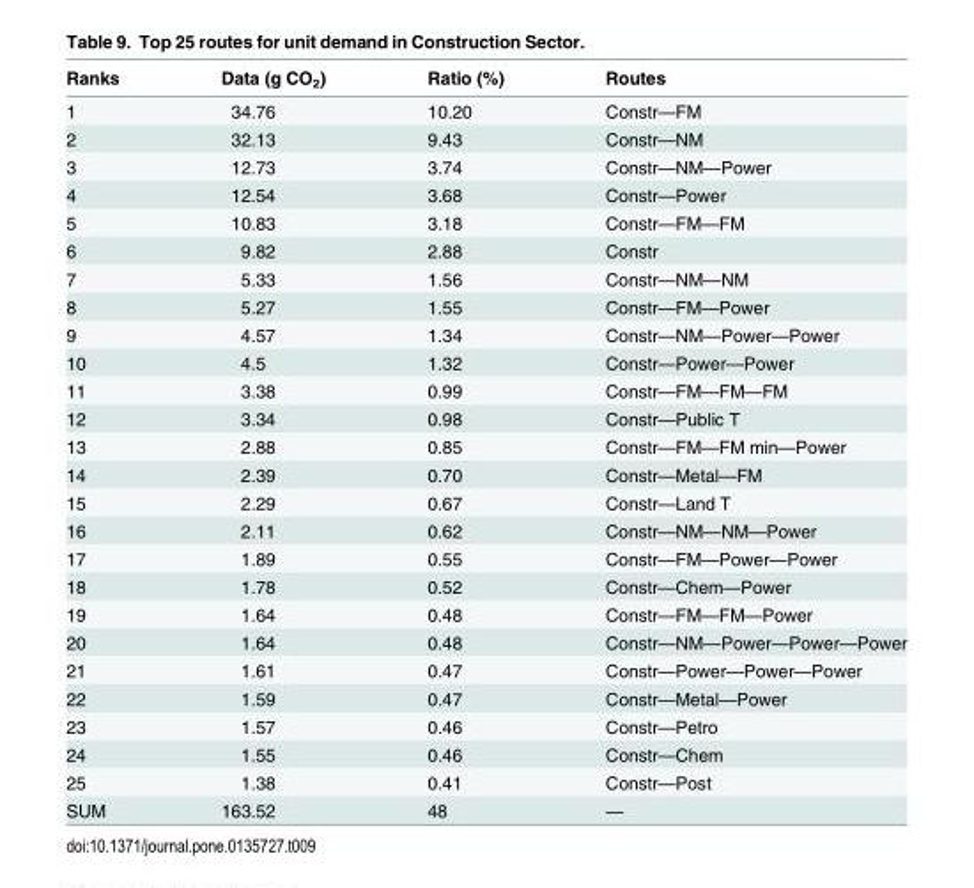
<table><thead><tr><td>Ranks</td><td>Data (g CO<sub>2</sub>)</td><td>Ratio (%)</td><td>Routes</td></tr></thead><tbody><tr><td>1</td><td>34.76</td><td>10.20</td><td>Constr—FM</td></tr><tr><td>2</td><td>32.13</td><td>9.43</td><td>Constr—NM</td></tr><tr><td>3</td><td>12.73</td><td>3.74</td><td>Constr—NM—Power</td></tr><tr><td>4</td><td>12.54</td><td>3.68</td><td>Constr—Power</td></tr><tr><td>5</td><td>10.83</td><td>3.18</td><td>Constr—FM—FM</td></tr><tr><td>6</td><td>9.82</td><td>2.88</td><td>Constr</td></tr><tr><td>7</td><td>5.33</td><td>1.56</td><td>Constr—NM—NM</td></tr><tr><td>8</td><td>5.27</td><td>1.55</td><td>Constr—FM—Power</td></tr><tr><td>9</td><td>4.57</td><td>1.34</td><td>Constr—NM—Power—Power</td></tr><tr><td>10</td><td>4.5</td><td>1.32</td><td>Constr—Power—Power</td></tr><tr><td>11</td><td>3.38</td><td>0.99</td><td>Constr—FM—FM—FM</td></tr><tr><td>12</td><td>3.34</td><td>0.98</td><td>Constr—Public T</td></tr><tr><td>13</td><td>2.88</td><td>0.85</td><td>Constr—FM—FM min—Power</td></tr><tr><td>14</td><td>2.39</td><td>0.70</td><td>Constr—Metal—FM</td></tr><tr><td>15</td><td>2.29</td><td>0.67</td><td>Constr—Land T</td></tr><tr><td>16</td><td>2.11</td><td>0.62</td><td>Constr—NM—NM—Power</td></tr><tr><td>17</td><td>1.89</td><td>0.55</td><td>Constr—FM—Power—Power</td></tr><tr><td>18</td><td>1.78</td><td>0.52</td><td>Constr—Chem—Power</td></tr><tr><td>19</td><td>1.64</td><td>0.48</td><td>Constr—FM—FM—Power</td></tr><tr><td>20</td><td>1.64</td><td>0.48</td><td>Constr—NM—Power—Power—Power</td></tr><tr><td>21</td><td>1.61</td><td>0.47</td><td>Constr—Power—Power—Power</td></tr><tr><td>22</td><td>1.59</td><td>0.47</td><td>Constr—Metal—Power</td></tr><tr><td>23</td><td>1.57</td><td>0.46</td><td>Constr—Petro</td></tr><tr><td>24</td><td>1.55</td><td>0.46</td><td>Constr—Chem</td></tr><tr><td>25</td><td>1.38</td><td>0.41</td><td>Constr—Post</td></tr><tr><td>SUM</td><td>163.52</td><td>48</td><td>—</td></tr></tbody></table>